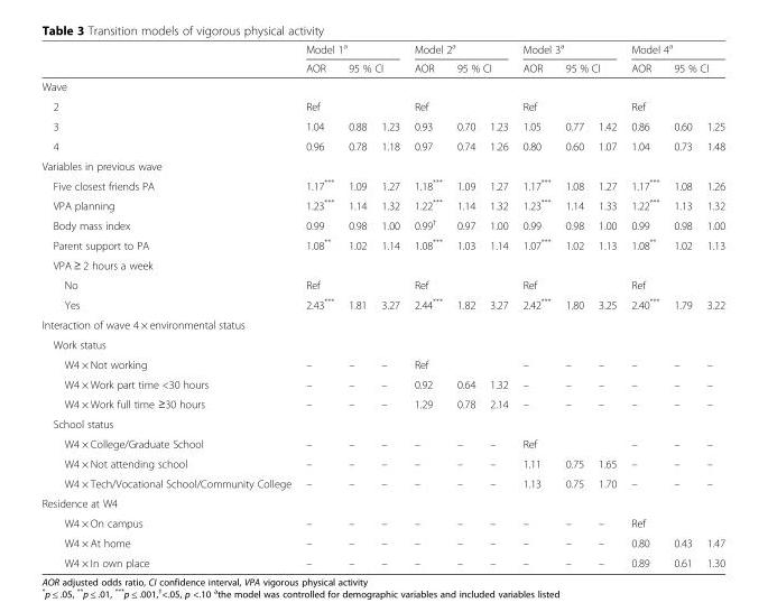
<table><thead><tr><td rowspan="2"></td><td colspan="3">Model 1<sup>a</sup></td><td colspan="3">Model 2<sup>a</sup></td><td colspan="3">Model 3<sup>a</sup></td><td colspan="3">Model 4<sup>a</sup></td></tr><tr><td>AOR</td><td colspan="2">95 % CI</td><td>AOR</td><td colspan="2">95 % CI</td><td>AOR</td><td colspan="2">95 % CI</td><td>AOR</td><td colspan="2">95 % CI</td></tr><tr><td colspan="13">Wave</td></tr><tr><td>2</td><td>Ref</td><td></td><td></td><td>Ref</td><td></td><td></td><td>Ref</td><td></td><td></td><td>Ref</td><td></td><td></td></tr></thead><tbody><tr><td>3</td><td>1.04</td><td>0.88</td><td>1.23</td><td>0.93</td><td>0.70</td><td>1.23</td><td>1.05</td><td>0.77</td><td>1.42</td><td>0.86</td><td>0.60</td><td>1.25</td></tr><tr><td>4</td><td>0.96</td><td>0.78</td><td>1.18</td><td>0.97</td><td>0.74</td><td>1.26</td><td>0.80</td><td>0.60</td><td>1.07</td><td>1.04</td><td>0.73</td><td>1.48</td></tr><tr><td colspan="13">Variables in previous wave</td></tr><tr><td>Five closest friends PA</td><td>1.17***</td><td>1.09</td><td>1.27</td><td>1.18***</td><td>1.09</td><td>1.27</td><td>1.17***</td><td>1.08</td><td>1.27</td><td>1.17***</td><td>1.08</td><td>1.26</td></tr><tr><td>VPA planning</td><td>1.23***</td><td>1.14</td><td>1.32</td><td>1.22***</td><td>1.14</td><td>1.32</td><td>1.23***</td><td>1.14</td><td>1.33</td><td>1.22***</td><td>1.13</td><td>1.32</td></tr><tr><td>Body mass index</td><td>0.99</td><td>0.98</td><td>1.00</td><td>0.99<sup>†</sup></td><td>0.97</td><td>1.00</td><td>0.99</td><td>0.98</td><td>1.00</td><td>0.99</td><td>0.98</td><td>1.00</td></tr><tr><td>Parent support to PA</td><td>1.08**</td><td>1.02</td><td>1.14</td><td>1.08***</td><td>1.03</td><td>1.14</td><td>1.07***</td><td>1.02</td><td>1.13</td><td>1.08**</td><td>1.02</td><td>1.13</td></tr><tr><td colspan="13">VPA ≥ 2 hours a week</td></tr><tr><td>No</td><td>Ref</td><td></td><td></td><td>Ref</td><td></td><td></td><td>Ref</td><td></td><td></td><td>Ref</td><td></td><td></td></tr><tr><td>Yes</td><td>2.43***</td><td>1.81</td><td>3.27</td><td>2.44***</td><td>1.82</td><td>3.27</td><td>2.42***</td><td>1.80</td><td>3.25</td><td>2.40***</td><td>1.79</td><td>3.22</td></tr><tr><td colspan="13">Interaction of wave 4 × environmental status</td></tr><tr><td colspan="13">Work status</td></tr><tr><td>W4 × Not working</td><td>–</td><td>–</td><td>–</td><td>Ref</td><td></td><td></td><td>–</td><td>–</td><td>–</td><td>–</td><td>–</td><td>–</td></tr><tr><td>W4 × Work part time &lt;30 hours</td><td>–</td><td>–</td><td>–</td><td>0.92</td><td>0.64</td><td>1.32</td><td>–</td><td>–</td><td>–</td><td>–</td><td>–</td><td>–</td></tr><tr><td>W4 × Work full time ≥30 hours</td><td>–</td><td>–</td><td>–</td><td>1.29</td><td>0.78</td><td>2.14</td><td>–</td><td>–</td><td>–</td><td>–</td><td>–</td><td>–</td></tr><tr><td colspan="13">School status</td></tr><tr><td>W4 × College/Graduate School</td><td>–</td><td>–</td><td>–</td><td>–</td><td>–</td><td>–</td><td>Ref</td><td></td><td></td><td>–</td><td>–</td><td>–</td></tr><tr><td>W4 × Not attending school</td><td>–</td><td>–</td><td>–</td><td>–</td><td>–</td><td>–</td><td>1.11</td><td>0.75</td><td>1.65</td><td>–</td><td>–</td><td>–</td></tr><tr><td>W4 × Tech/Vocational School/Community College</td><td>–</td><td>–</td><td>–</td><td>–</td><td>–</td><td>–</td><td>1.13</td><td>0.75</td><td>1.70</td><td>–</td><td>–</td><td>–</td></tr><tr><td colspan="13">Residence at W4</td></tr><tr><td>W4 × On campus</td><td>–</td><td>–</td><td>–</td><td>–</td><td>–</td><td>–</td><td>–</td><td>–</td><td>–</td><td>Ref</td><td></td><td></td></tr><tr><td>W4 × At home</td><td>–</td><td>–</td><td>–</td><td>–</td><td>–</td><td>–</td><td>–</td><td>–</td><td>–</td><td>0.80</td><td>0.43</td><td>1.47</td></tr><tr><td>W4 × In own place</td><td>–</td><td>–</td><td>–</td><td>–</td><td>–</td><td>–</td><td>–</td><td>–</td><td>–</td><td>0.89</td><td>0.61</td><td>1.30</td></tr></tbody></table>